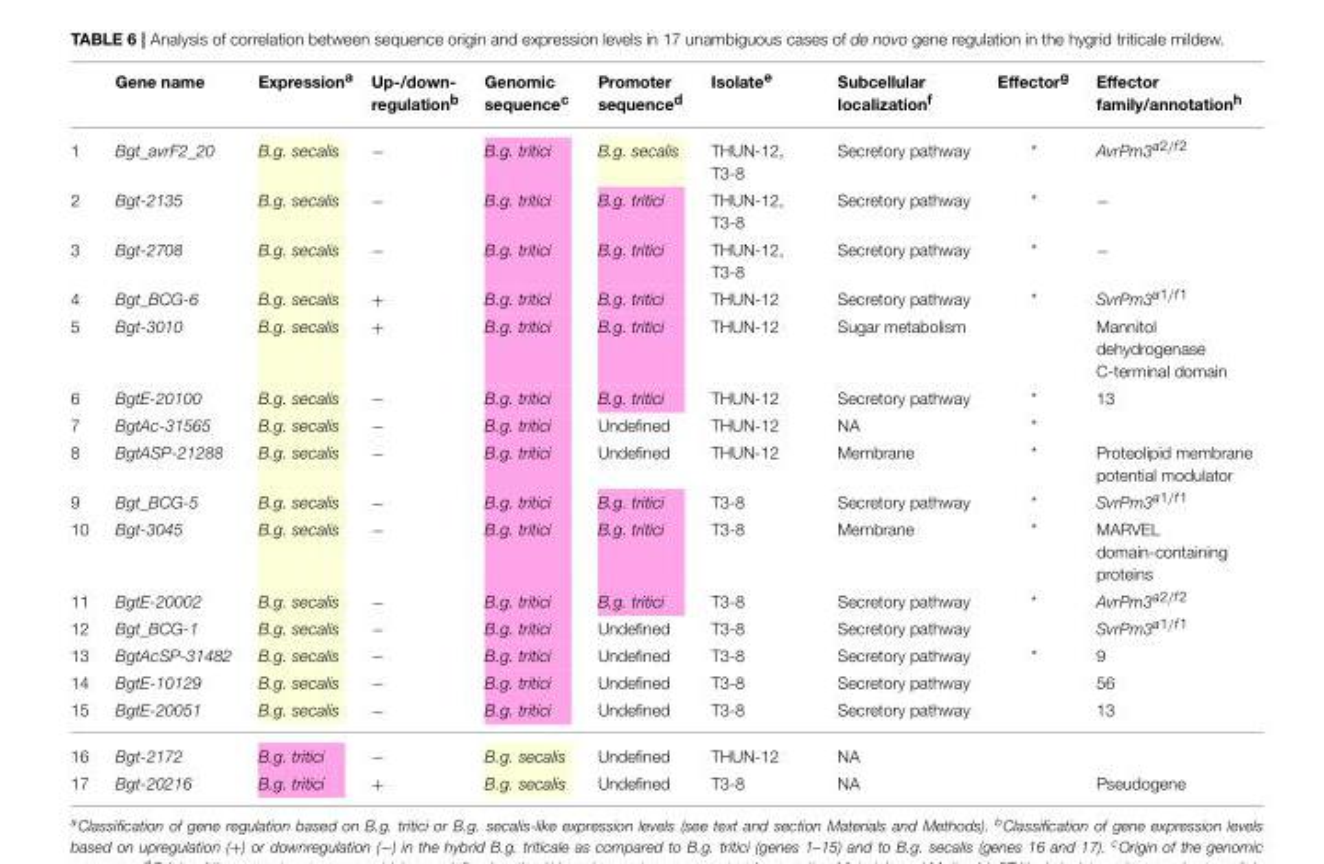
<table><thead><tr><td></td><td>Gene name</td><td>Expression<sup>a</sup></td><td>Up-/down- regulation<sup>b</sup></td><td>Genomic sequence<sup>c</sup></td><td>Promoter sequence<sup>d</sup></td><td>Isolate<sup>e</sup></td><td>Subcellular localization<sup>f</sup></td><td>Effector<sup>g</sup></td><td>Effector family/annotation<sup>h</sup></td></tr></thead><tbody><tr><td>1</td><td>Bgt_avrF2_20</td><td>B.g. secalis</td><td>−</td><td>B.g. tritici</td><td>B.g. secalis</td><td>THUN-12, T3-8</td><td>Secretory pathway</td><td>*</td><td>AvrPm3a2/f2</td></tr><tr><td>2</td><td>Bgt-2135</td><td>B.g. secalis</td><td>−</td><td>B.g. tritici</td><td>B.g. tritici</td><td>THUN-12, T3-8</td><td>Secretory pathway</td><td>*</td><td>−</td></tr><tr><td>3</td><td>Bgt-2708</td><td>B.g. secalis</td><td>−</td><td>B.g. tritici</td><td>B.g. tritici</td><td>THUN-12, T3-8</td><td>Secretory pathway</td><td>*</td><td>−</td></tr><tr><td>4</td><td>Bgt_BCG-6</td><td>B.g. secalis</td><td>+</td><td>B.g. tritici</td><td>B.g. tritici</td><td>THUN-12</td><td>Secretory pathway</td><td>*</td><td>SvrPm3a1/f1</td></tr><tr><td>5</td><td>Bgt-3010</td><td>B.g. secalis</td><td>+</td><td>B.g. tritici</td><td>B.g. tritici</td><td>THUN-12</td><td>Sugar metabolism</td><td></td><td>Mannitol dehydrogenase C-terminal domain</td></tr><tr><td>6</td><td>BgtE-20100</td><td>B.g. secalis</td><td>−</td><td>B.g. tritici</td><td>B.g. tritici</td><td>THUN-12</td><td>Secretory pathway</td><td>*</td><td>13</td></tr><tr><td>7</td><td>BgtAc-31565</td><td>B.g. secalis</td><td>−</td><td>B.g. tritici</td><td>Undefined</td><td>THUN-12</td><td>NA</td><td>*</td><td></td></tr><tr><td>8</td><td>BgtASP-21288</td><td>B.g. secalis</td><td>−</td><td>B.g. tritici</td><td>Undefined</td><td>THUN-12</td><td>Membrane</td><td>*</td><td>Proteolipid membrane potential modulator</td></tr><tr><td>9</td><td>Bgt_BCG-5</td><td>B.g. secalis</td><td>−</td><td>B.g. tritici</td><td>B.g. tritici</td><td>T3-8</td><td>Secretory pathway</td><td>*</td><td>SvrPm3a1/f1</td></tr><tr><td>10</td><td>Bgt-3045</td><td>B.g. secalis</td><td>−</td><td>B.g. tritici</td><td>B.g. tritici</td><td>T3-8</td><td>Membrane</td><td>*</td><td>MARVEL domain-containing proteins</td></tr><tr><td>11</td><td>BgtE-20002</td><td>B.g. secalis</td><td>−</td><td>B.g. tritici</td><td>B.g. tritici</td><td>T3-8</td><td>Secretory pathway</td><td>*</td><td>AvrPm3a2/f2</td></tr><tr><td>12</td><td>Bgt_BCG-1</td><td>B.g. secalis</td><td>−</td><td>B.g. tritici</td><td>Undefined</td><td>T3-8</td><td>Secretory pathway</td><td></td><td>SvrPm3a1/f1</td></tr><tr><td>13</td><td>BgtAcSP-31482</td><td>B.g. secalis</td><td>−</td><td>B.g. tritici</td><td>Undefined</td><td>T3-8</td><td>Secretory pathway</td><td>*</td><td>9</td></tr><tr><td>14</td><td>BgtE-10129</td><td>B.g. secalis</td><td>−</td><td>B.g. tritici</td><td>Undefined</td><td>T3-8</td><td>Secretory pathway</td><td></td><td>56</td></tr><tr><td>15</td><td>BgtE-20051</td><td>B.g. secalis</td><td>−</td><td>B.g. tritici</td><td>Undefined</td><td>T3-8</td><td>Secretory pathway</td><td></td><td>13</td></tr><tr><td>16</td><td>Bgt-2172</td><td>B.g. tritici</td><td>−</td><td>B.g. secalis</td><td>Undefined</td><td>THUN-12</td><td>NA</td><td></td><td></td></tr><tr><td>17</td><td>Bgt-20216</td><td>B.g. tritici</td><td>+</td><td>B.g. secalis</td><td>Undefined</td><td>T3-8</td><td>NA</td><td></td><td>Pseudogene</td></tr></tbody></table>